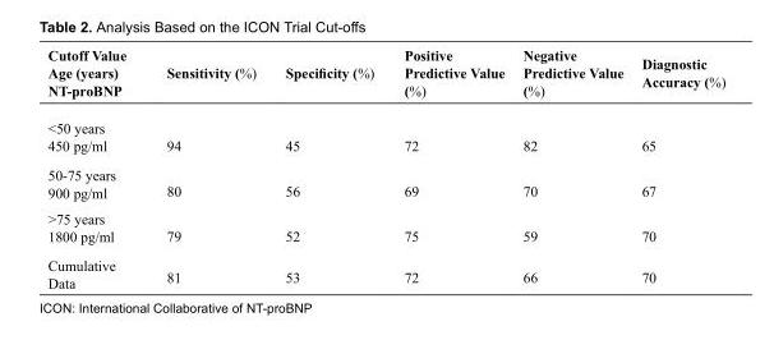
<table><thead><tr><td>Cutoff Value Age (years) NT-proBNP</td><td>Sensitivity (%)</td><td>Specificity (%)</td><td>Positive Predictive Value (%)</td><td>Negative Predictive Value (%)</td><td>Diagnostic Accuracy (%)</td></tr></thead><tbody><tr><td>&lt;50 years 450 pg/ml</td><td>94</td><td>45</td><td>72</td><td>82</td><td>65</td></tr><tr><td>50-75 years 900 pg/ml</td><td>80</td><td>56</td><td>69</td><td>70</td><td>67</td></tr><tr><td>&gt;75 years 1800 pg/ml</td><td>79</td><td>52</td><td>75</td><td>59</td><td>70</td></tr><tr><td>Cumulative Data</td><td>81</td><td>53</td><td>72</td><td>66</td><td>70</td></tr></tbody></table>